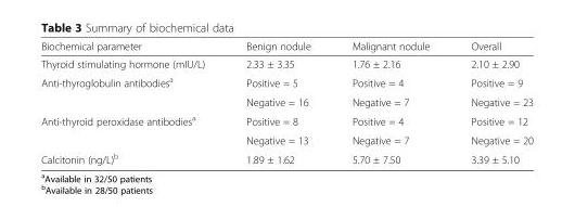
<table><thead><tr><td>Biochemical parameter</td><td>Benign nodule</td><td>Malignant nodule</td><td>Overall</td></tr></thead><tbody><tr><td>Thyroid stimulating hormone (mIU/L)</td><td>2.33 ± 3.35</td><td>1.76 ± 2.16</td><td>2.10 ± 2.90</td></tr><tr><td rowspan="2">Anti-thyroglobulin antibodies<sup>a</sup></td><td>Positive = 5</td><td>Positive = 4</td><td>Positive = 9</td></tr><tr><td>Negative = 16</td><td>Negative = 7</td><td>Negative = 23</td></tr><tr><td rowspan="2">Anti-thyroid peroxidase antibodies<sup>a</sup></td><td>Positive = 8</td><td>Positive = 4</td><td>Positive = 12</td></tr><tr><td>Negative = 13</td><td>Negative = 7</td><td>Negative = 20</td></tr><tr><td>Calcitonin (ng/L)<sup>b</sup></td><td>1.89 ± 1.62</td><td>5.70 ± 7.50</td><td>3.39 ± 5.10</td></tr></tbody></table>